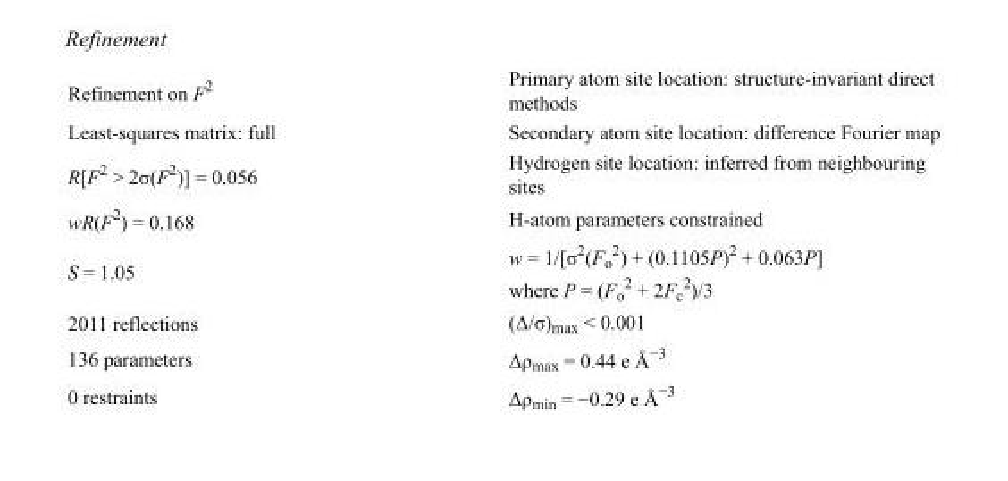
<table><tbody><tr><td>Refinement on F<sup>2</sup></td><td>Primary atom site location: structure-invariant direct methods</td></tr><tr><td>Least-squares matrix: full</td><td>Secondary atom site location: difference Fourier map</td></tr><tr><td>R[F<sup>2</sup> &gt; 2σ(F<sup>2</sup>)] = 0.056</td><td>Hydrogen site location: inferred from neighbouring sites</td></tr><tr><td>wR(F<sup>2</sup>) = 0.168</td><td>H-atom parameters constrained</td></tr><tr><td>S = 1.05</td><td>w = 1/[σ<sup>2</sup>(F<sub>o</sub> <sup>2</sup>) + (0.1105P)<sup>2</sup> + 0.063P] where P = (F<sub>o</sub> <sup>2</sup> + 2F<sub>c</sub> <sup>2</sup>)/3</td></tr><tr><td>2011 reflections</td><td>(Δ/σ)<sub>max</sub> &lt; 0.001</td></tr><tr><td>136 parameters</td><td>Δρ<sub>max</sub> = 0.44 e Å<sup>−3</sup></td></tr><tr><td>0 restraints</td><td>Δρ<sub>min</sub> = −0.29 e Å<sup>−3</sup></td></tr></tbody></table>